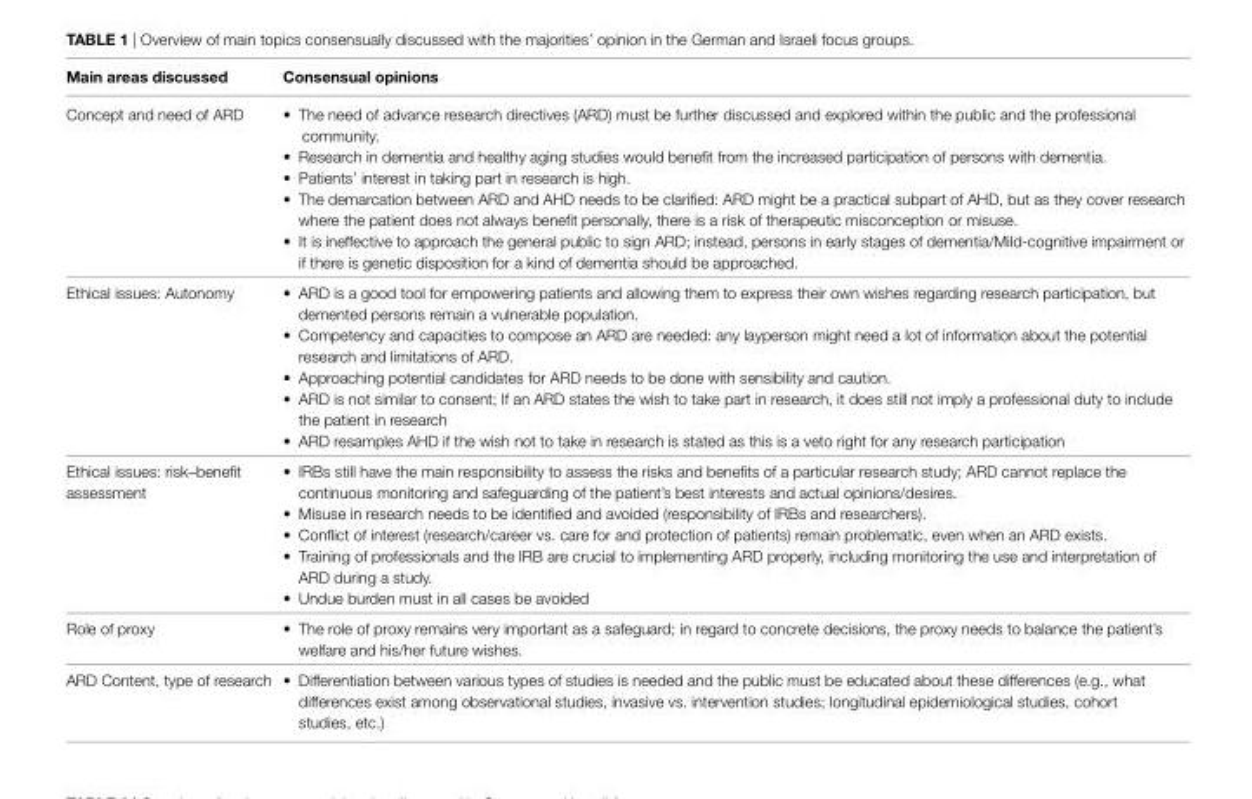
<table><thead><tr><td>Main areas discussed</td><td>consensual opinions</td></tr></thead><tbody><tr><td>Concept and need of ARD</td><td>• The need of advance research directives (ARD) must be further discussed and explored within the public and the professional community. • Research in dementia and healthy aging studies would benefit from the increased participation of persons with dementia. • Patients’ interest in taking part in research is high. • The demarcation between ARD and AHD needs to be clarified: ARD might be a practical subpart of AHD, but as they cover research where the patient does not always benefit personally, there is a risk of therapeutic misconception or misuse. • It is ineffective to approach the general public to sign ARD; instead, persons in early stages of dementia/Mild-cognitive impairment or if there is genetic disposition for a kind of dementia should be approached.</td></tr><tr><td>Ethical issues: Autonomy</td><td>• ARD is a good tool for empowering patients and allowing them to express their own wishes regarding research participation, but demented persons remain a vulnerable population. • Competency and capacities to compose an ARD are needed: any layperson might need a lot of information about the potential research and limitations of ARD. • Approaching potential candidates for ARD needs to be done with sensibility and caution. • ARD is not similar to consent; If an ARD states the wish to take part in research, it does still not imply a professional duty to include the patient in research • ARD resamples AHD if the wish not to take in research is stated as this is a veto right for any research participation</td></tr><tr><td>Ethical issues: risk–benefit assessment</td><td>• IRBs still have the main responsibility to assess the risks and benefits of a particular research study; ARD cannot replace the continuous monitoring and safeguarding of the patient’s best interests and actual opinions/desires. • Misuse in research needs to be identified and avoided (responsibility of IRBs and researchers). • Conflict of interest (research/career vs. care for and protection of patients) remain problematic, even when an ARD exists. • Training of professionals and the IRB are crucial to implementing ARD properly, including monitoring the use and interpretation of ARD during a study. • Undue burden must in all cases be avoided</td></tr><tr><td>Role of proxy</td><td>• The role of proxy remains very important as a safeguard; in regard to concrete decisions, the proxy needs to balance the patient’s welfare and his/her future wishes.</td></tr><tr><td>ARD Content, type of research</td><td>• Differentiation between various types of studies is needed and the public must be educated about these differences (e.g., what differences exist among observational studies, invasive vs. intervention studies; longitudinal epidemiological studies, cohort studies, etc.)</td></tr></tbody></table>